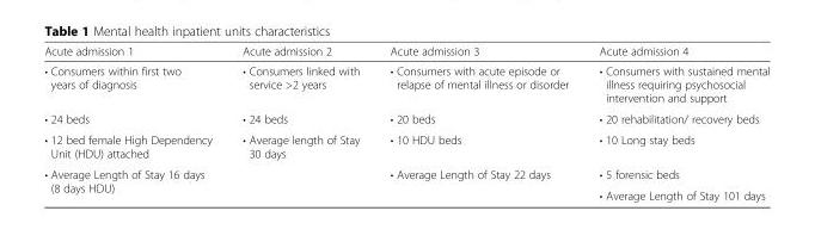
<table><thead><tr><td>Acute admission 1</td><td>Acute admission 2</td><td>Acute admission 3</td><td>Acute admission 4</td></tr></thead><tbody><tr><td>• Consumers within first two years of diagnosis</td><td>• Consumers linked with service &gt;2 years</td><td>• Consumers with acute episode or relapse of mental illness or disorder</td><td>• Consumers with sustained mental illness requiring psychosocial intervention and support</td></tr><tr><td>• 24 beds</td><td>• 24 beds</td><td>• 20 beds</td><td>• 20 rehabilitation/ recovery beds</td></tr><tr><td>• 12 bed female High Dependency Unit (HDU) attached</td><td rowspan="3">• Average length of Stay 30 days</td><td>• 10 HDU beds</td><td>• 10 Long stay beds</td></tr><tr><td rowspan="2">• Average Length of Stay 16 days (8 days HDU)</td><td rowspan="2">• Average Length of Stay 22 days</td><td>• 5 forensic beds</td></tr><tr><td>• Average Length of Stay 101 days</td></tr></tbody></table>